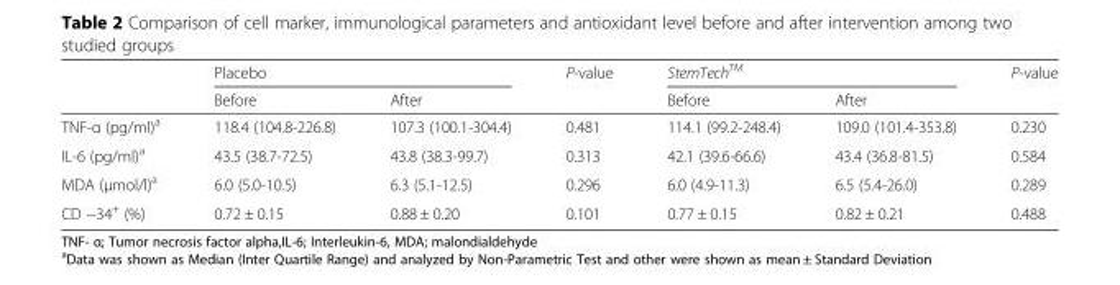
<table><thead><tr><td rowspan="2"></td><td colspan="2">Placebo</td><td rowspan="2">P-value</td><td colspan="2">StemTech<sup>TM</sup></td><td rowspan="2">P-value</td></tr><tr><td>Before</td><td>After</td><td>Before</td><td>After</td></tr></thead><tbody><tr><td>TNF-α (pg/ml)<sup>a</sup></td><td>118.4 (104.8-226.8)</td><td>107.3 (100.1-304.4)</td><td>0.481</td><td>114.1 (99.2-248.4)</td><td>109.0 (101.4-353.8)</td><td>0.230</td></tr><tr><td>IL-6 (pg/ml)<sup>a</sup></td><td>43.5 (38.7-72.5)</td><td>43.8 (38.3-99.7)</td><td>0.313</td><td>42.1 (39.6-66.6)</td><td>43.4 (36.8-81.5)</td><td>0.584</td></tr><tr><td>MDA (μmol/l)<sup>a</sup></td><td>6.0 (5.0-10.5)</td><td>6.3 (5.1-12.5)</td><td>0.296</td><td>6.0 (4.9-11.3)</td><td>6.5 (5.4-26.0)</td><td>0.289</td></tr><tr><td>CD −34<sup>+</sup> (%)</td><td>0.72 ± 0.15</td><td>0.88 ± 0.20</td><td>0.101</td><td>0.77 ± 0.15</td><td>0.82 ± 0.21</td><td>0.488</td></tr></tbody></table>